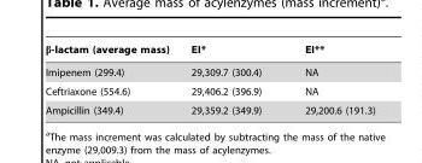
<table><thead><tr><td>β-lactam (average mass)</td><td>EI*</td><td>EI**</td></tr></thead><tbody><tr><td>Imipenem (299.4)</td><td>29,309.7 (300.4)</td><td>NA</td></tr><tr><td>Ceftriaxone (554.6)</td><td>29,406.2 (396.9)</td><td>NA</td></tr><tr><td>Ampicillin (349.4)</td><td>29,359.2 (349.9)</td><td>29,200.6 (191.3)</td></tr></tbody></table>